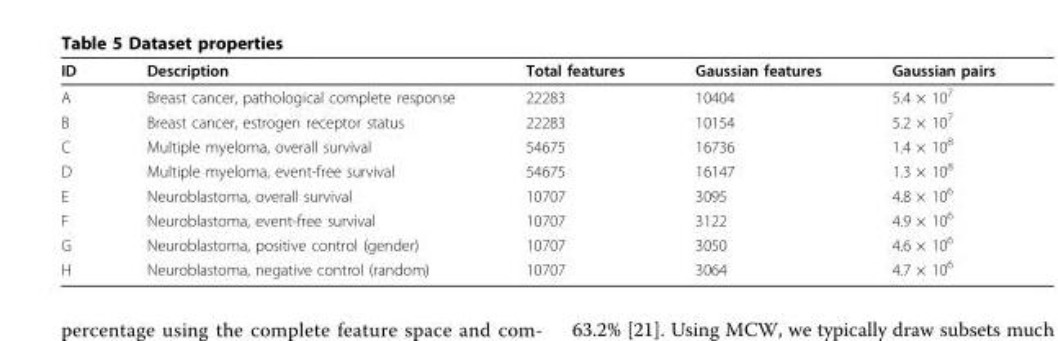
<table><thead><tr><td>ID</td><td>Description</td><td>Total features</td><td>Gaussian features</td><td>Gaussian pairs</td></tr></thead><tbody><tr><td>A</td><td>Breast cancer, pathological complete response</td><td>22283</td><td>10404</td><td>5.4 × 10<sup>7</sup></td></tr><tr><td>B</td><td>Breast cancer, estrogen receptor status</td><td>22283</td><td>10154</td><td>5.2 × 10<sup>7</sup></td></tr><tr><td>C</td><td>Multiple myeloma, overall survival</td><td>54675</td><td>16736</td><td>1.4 × 10<sup>8</sup></td></tr><tr><td>D</td><td>Multiple myeloma, event-free survival</td><td>54675</td><td>16147</td><td>1.3 × 10<sup>8</sup></td></tr><tr><td>E</td><td>Neuroblastoma, overall survival</td><td>10707</td><td>3095</td><td>4.8 × 10<sup>6</sup></td></tr><tr><td>F</td><td>Neuroblastoma, event-free survival</td><td>10707</td><td>3122</td><td>4.9 × 10<sup>6</sup></td></tr><tr><td>G</td><td>Neuroblastoma, positive control (gender)</td><td>10707</td><td>3050</td><td>4.6 × 10<sup>6</sup></td></tr><tr><td>H</td><td>Neuroblastoma, negative control (random)</td><td>10707</td><td>3064</td><td>4.7 × 10<sup>6</sup></td></tr></tbody></table>